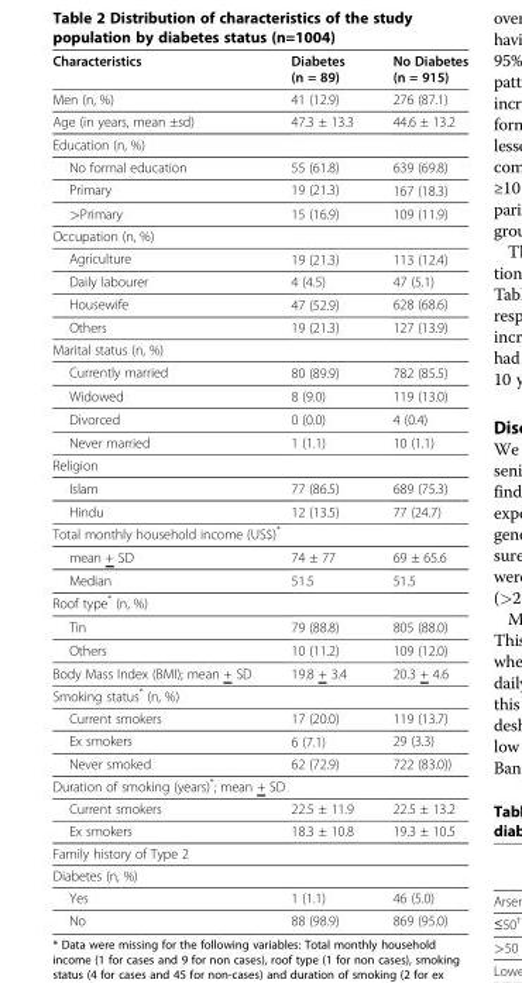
<table><thead><tr><td>Characteristics</td><td>Diabetes (n = 89)</td><td>No Diabetes (n = 915)</td></tr></thead><tbody><tr><td>Men (n, %)</td><td>41 (12.9)</td><td>276 (87.1)</td></tr><tr><td>Age (in years, mean ±sd)</td><td>47.3 ± 13.3</td><td>44.6 ± 13.2</td></tr><tr><td colspan="3">Education (n, %)</td></tr><tr><td>No formal education</td><td>55 (61.8)</td><td>639 (69.8)</td></tr><tr><td>Primary</td><td>19 (21.3)</td><td>167 (18.3)</td></tr><tr><td>&gt;Primary</td><td>15 (16.9)</td><td>109 (11.9)</td></tr><tr><td colspan="3">Occupation (n, %)</td></tr><tr><td>Agriculture</td><td>19 (21.3)</td><td>113 (12.4)</td></tr><tr><td>Daily labourer</td><td>4 (4.5)</td><td>47 (5.1)</td></tr><tr><td>Housewife</td><td>47 (52.9)</td><td>628 (68.6)</td></tr><tr><td>Others</td><td>19 (21.3)</td><td>127 (13.9)</td></tr><tr><td colspan="3">Marital status (n, %)</td></tr><tr><td>Currently married</td><td>80 (89.9)</td><td>782 (85.5)</td></tr><tr><td>Widowed</td><td>8 (9.0)</td><td>119 (13.0)</td></tr><tr><td>Divorced</td><td>0 (0.0)</td><td>4 (0.4)</td></tr><tr><td>Never married</td><td>1 (1.1)</td><td>10 (1.1)</td></tr><tr><td colspan="3">Religion</td></tr><tr><td>Islam</td><td>77 (86.5)</td><td>689 (75.3)</td></tr><tr><td>Hindu</td><td>12 (13.5)</td><td>77 (24.7)</td></tr><tr><td colspan="3">Total monthly household income (US$)*</td></tr><tr><td>mean + SD</td><td>74 ± 77</td><td>69 ± 65.6</td></tr><tr><td>Median</td><td>51.5</td><td>51.5</td></tr><tr><td colspan="3">Roof type* (n, %)</td></tr><tr><td>Tin</td><td>79 (88.8)</td><td>805 (88.0)</td></tr><tr><td>Others</td><td>10 (11.2)</td><td>109 (12.0)</td></tr><tr><td>Body Mass Index (BMI); mean + SD</td><td>19.8 + 3.4</td><td>20.3 + 4.6</td></tr><tr><td colspan="3">Smoking status* (n, %)</td></tr><tr><td>Current smokers</td><td>17 (20.0)</td><td>119 (13.7)</td></tr><tr><td>Ex smokers</td><td>6 (7.1)</td><td>29 (3.3)</td></tr><tr><td>Never smoked</td><td>62 (72.9)</td><td>722 (83.0))</td></tr><tr><td colspan="3">Duration of smoking (years)*; mean + SD</td></tr><tr><td>Current smokers</td><td>22.5 ± 11.9</td><td>22.5 ± 13.2</td></tr><tr><td>Ex smokers</td><td>18.3 ± 10.8</td><td>19.3 ± 10.5</td></tr><tr><td colspan="3">Family history of Type 2</td></tr><tr><td colspan="3">Diabetes (n, %)</td></tr><tr><td>Yes</td><td>1 (1.1)</td><td>46 (5.0)</td></tr><tr><td>No</td><td>88 (98.9)</td><td>869 (95.0)</td></tr></tbody></table>